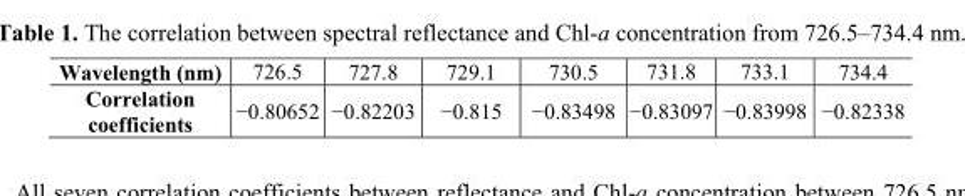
<table><tbody><tr><td>Wavelength (nm)</td><td>726.5</td><td>727.8</td><td>729.1</td><td>730.5</td><td>731.8</td><td>733.1</td><td>734.4</td></tr><tr><td>Correlation coefficients</td><td>−0.80652</td><td>−0.82203</td><td>−0.815</td><td>−0.83498</td><td>−0.83097</td><td>−0.83998</td><td>−0.82338</td></tr></tbody></table>